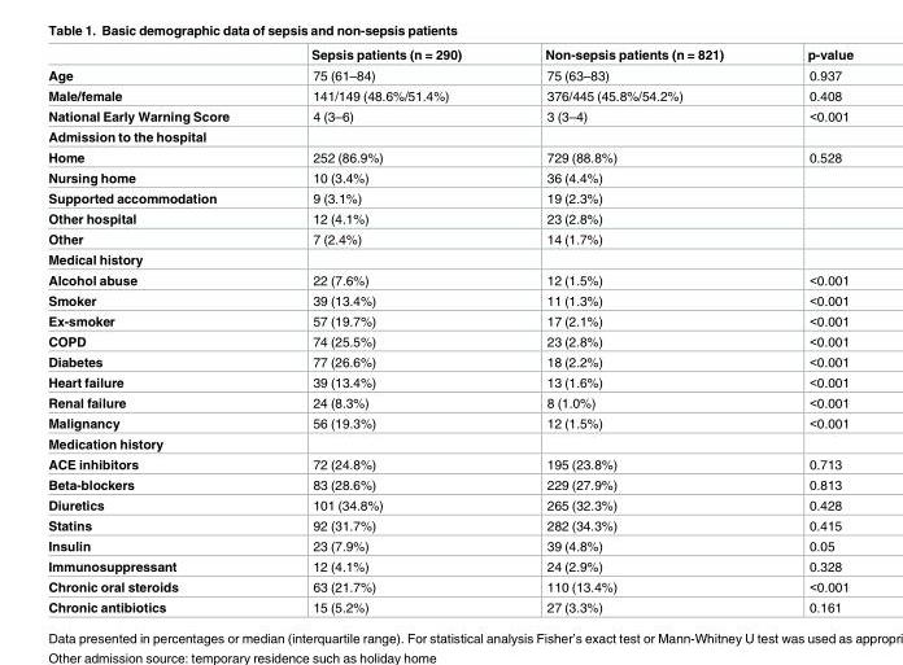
<table><thead><tr><td></td><td>Sepsis patients (n = 290)</td><td>Non-sepsis patients (n = 821)</td><td>p-value</td></tr></thead><tbody><tr><td>Age</td><td>75 (61–84)</td><td>75 (63–83)</td><td>0.937</td></tr><tr><td>Male/female</td><td>141/149 (48.6%/51.4%)</td><td>376/445 (45.8%/54.2%)</td><td>0.408</td></tr><tr><td>National Early Warning Score</td><td>4 (3–6)</td><td>3 (3–4)</td><td>&lt;0.001</td></tr><tr><td colspan="4">Admission to the hospital</td></tr><tr><td>Home</td><td>252 (86.9%)</td><td>729 (88.8%)</td><td>0.528</td></tr><tr><td>Nursing home</td><td>10 (3.4%)</td><td>36 (4.4%)</td><td></td></tr><tr><td>Supported accommodation</td><td>9 (3.1%)</td><td>19 (2.3%)</td><td></td></tr><tr><td>Other hospital</td><td>12 (4.1%)</td><td>23 (2.8%)</td><td></td></tr><tr><td>Other</td><td>7 (2.4%)</td><td>14 (1.7%)</td><td></td></tr><tr><td colspan="4">Medical history</td></tr><tr><td>Alcohol abuse</td><td>22 (7.6%)</td><td>12 (1.5%)</td><td>&lt;0.001</td></tr><tr><td>Smoker</td><td>39 (13.4%)</td><td>11 (1.3%)</td><td>&lt;0.001</td></tr><tr><td>Ex-smoker</td><td>57 (19.7%)</td><td>17 (2.1%)</td><td>&lt;0.001</td></tr><tr><td>COPD</td><td>74 (25.5%)</td><td>23 (2.8%)</td><td>&lt;0.001</td></tr><tr><td>Diabetes</td><td>77 (26.6%)</td><td>18 (2.2%)</td><td>&lt;0.001</td></tr><tr><td>Heart failure</td><td>39 (13.4%)</td><td>13 (1.6%)</td><td>&lt;0.001</td></tr><tr><td>Renal failure</td><td>24 (8.3%)</td><td>8 (1.0%)</td><td>&lt;0.001</td></tr><tr><td>Malignancy</td><td>56 (19.3%)</td><td>12 (1.5%)</td><td>&lt;0.001</td></tr><tr><td colspan="4">Medication history</td></tr><tr><td>ACE inhibitors</td><td>72 (24.8%)</td><td>195 (23.8%)</td><td>0.713</td></tr><tr><td>Beta-blockers</td><td>83 (28.6%)</td><td>229 (27.9%)</td><td>0.813</td></tr><tr><td>Diuretics</td><td>101 (34.8%)</td><td>265 (32.3%)</td><td>0.428</td></tr><tr><td>Statins</td><td>92 (31.7%)</td><td>282 (34.3%)</td><td>0.415</td></tr><tr><td>Insulin</td><td>23 (7.9%)</td><td>39 (4.8%)</td><td>0.05</td></tr><tr><td>Immunosuppressant</td><td>12 (4.1%)</td><td>24 (2.9%)</td><td>0.328</td></tr><tr><td>Chronic oral steroids</td><td>63 (21.7%)</td><td>110 (13.4%)</td><td>&lt;0.001</td></tr><tr><td>Chronic antibiotics</td><td>15 (5.2%)</td><td>27 (3.3%)</td><td>0.161</td></tr></tbody></table>